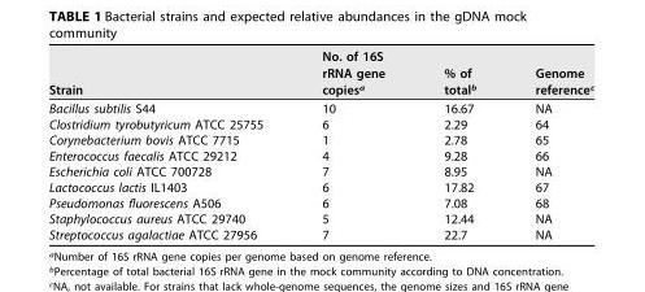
<table><thead><tr><td>Strain</td><td>No. of 16S rRNA gene copies<sup>a</sup></td><td>% of total<sup>b</sup></td><td>Genome reference<sup>c</sup></td></tr></thead><tbody><tr><td>Bacillus subtilis S44</td><td>10</td><td>16.67</td><td>NA</td></tr><tr><td>Clostridium tyrobutyricum ATCC 25755</td><td>6</td><td>2.29</td><td>64</td></tr><tr><td>Corynebacterium bovis ATCC 7715</td><td>1</td><td>2.78</td><td>65</td></tr><tr><td>Enterococcus faecalis ATCC 29212</td><td>4</td><td>9.28</td><td>66</td></tr><tr><td>Escherichia coli ATCC 700728</td><td>7</td><td>8.95</td><td>NA</td></tr><tr><td>Lactococcus lactis IL1403</td><td>6</td><td>17.82</td><td>67</td></tr><tr><td>Pseudomonas fluorescens A506</td><td>6</td><td>7.08</td><td>68</td></tr><tr><td>Staphylococcus aureus ATCC 29740</td><td>5</td><td>12.44</td><td>NA</td></tr><tr><td>Streptococcus agalactiae ATCC 27956</td><td>7</td><td>22.7</td><td>NA</td></tr></tbody></table>